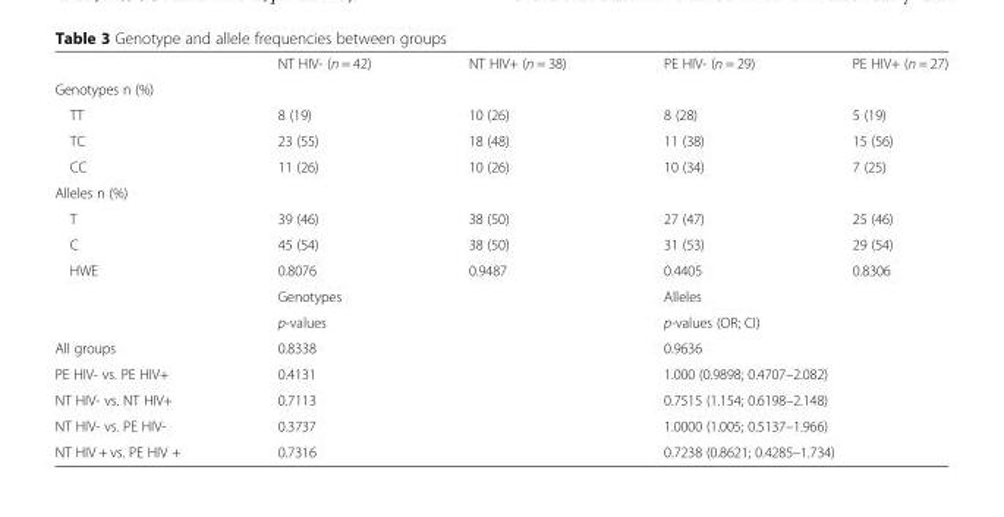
<table><thead><tr><td></td><td>NT HIV- (n = 42)</td><td>NT HIV+ (n = 38)</td><td>PE HIV- (n = 29)</td><td>PE HIV+ (n = 27)</td></tr></thead><tbody><tr><td colspan="5">Genotypes n (%)</td></tr><tr><td>TT</td><td>8 (19)</td><td>10 (26)</td><td>8 (28)</td><td>5 (19)</td></tr><tr><td>TC</td><td>23 (55)</td><td>18 (48)</td><td>11 (38)</td><td>15 (56)</td></tr><tr><td>CC</td><td>11 (26)</td><td>10 (26)</td><td>10 (34)</td><td>7 (25)</td></tr><tr><td colspan="5">Alleles n (%)</td></tr><tr><td>T</td><td>39 (46)</td><td>38 (50)</td><td>27 (47)</td><td>25 (46)</td></tr><tr><td>C</td><td>45 (54)</td><td>38 (50)</td><td>31 (53)</td><td>29 (54)</td></tr><tr><td rowspan="3">HWE</td><td>0.8076</td><td>0.9487</td><td>0.4405</td><td>0.8306</td></tr><tr><td colspan="2">Genotypes</td><td colspan="2">Alleles</td></tr><tr><td colspan="2">p-values</td><td colspan="2">p-values (OR; CI)</td></tr><tr><td>All groups</td><td colspan="2">0.8338</td><td colspan="2">0.9636</td></tr><tr><td>PE HIV- vs. PE HIV+</td><td colspan="2">0.4131</td><td colspan="2">1.000 (0.9898; 0.4707–2.082)</td></tr><tr><td>NT HIV- vs. NT HIV+</td><td colspan="2">0.7113</td><td colspan="2">0.7515 (1.154; 0.6198–2.148)</td></tr><tr><td>NT HIV- vs. PE HIV-</td><td colspan="2">0.3737</td><td colspan="2">1.0000 (1.005; 0.5137–1.966)</td></tr><tr><td>NT HIV + vs. PE HIV +</td><td colspan="2">0.7316</td><td colspan="2">0.7238 (0.8621; 0.4285–1.734)</td></tr></tbody></table>